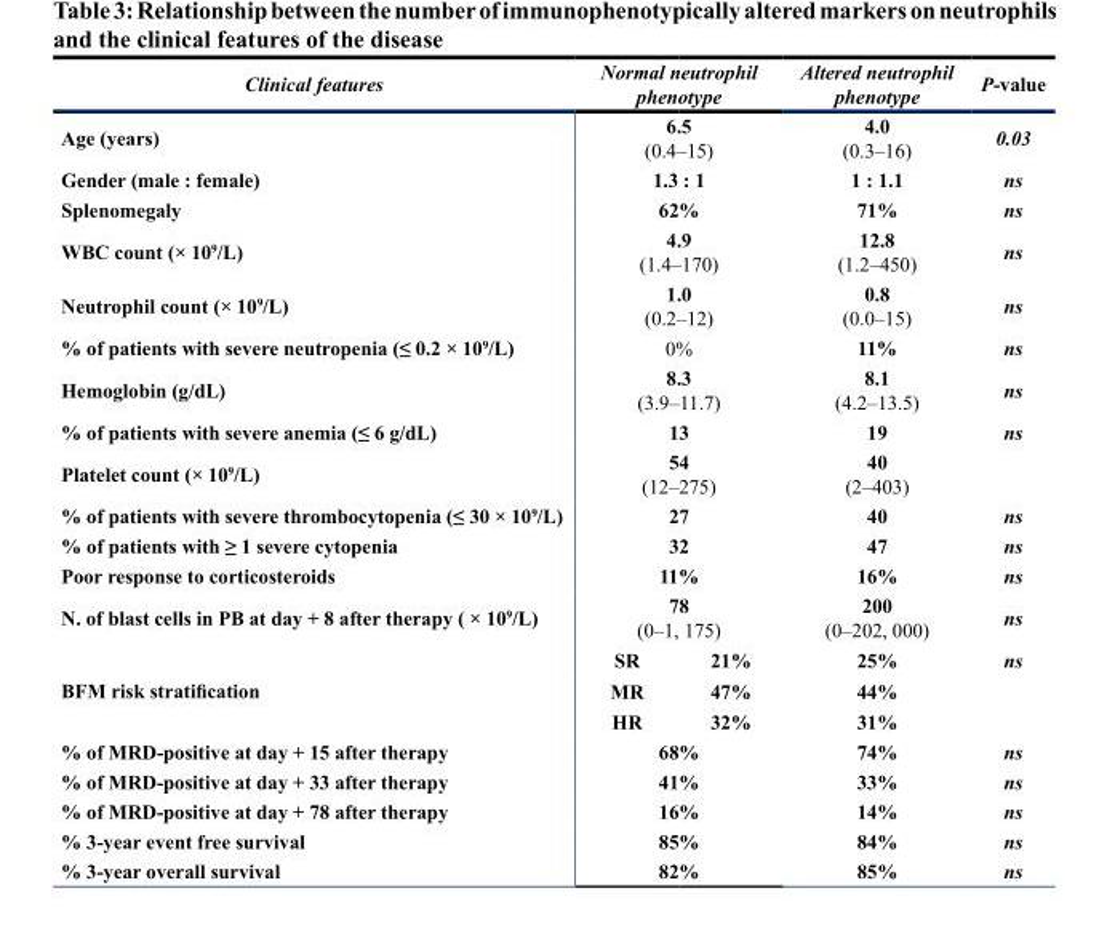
<table><thead><tr><td>Clinical features</td><td colspan="2">Normal neutrophil phenotype</td><td>Altered neutrophil phenotype</td><td>P‑value</td></tr></thead><tbody><tr><td>Age (years)</td><td colspan="2">6.5 (0.4–15)</td><td>4.0 (0.3–16)</td><td>0.03</td></tr><tr><td>Gender (male : female)</td><td colspan="2">1.3 : 1</td><td>1 : 1.1</td><td>ns</td></tr><tr><td>Splenomegaly</td><td colspan="2">62%</td><td>71%</td><td>ns</td></tr><tr><td>WBC count (× 10<sup>9</sup>/L)</td><td colspan="2">4.9 (1.4–170)</td><td>12.8 (1.2–450)</td><td>ns</td></tr><tr><td>Neutrophil count (× 10<sup>9</sup>/L)</td><td colspan="2">1.0 (0.2–12)</td><td>0.8 (0.0–15)</td><td>ns</td></tr><tr><td>% of patients with severe neutropenia (≤ 0.2 × 10<sup>9</sup>/L)</td><td colspan="2">0%</td><td>11%</td><td>ns</td></tr><tr><td>Hemoglobin (g/dL)</td><td colspan="2">8.3 (3.9–11.7)</td><td>8.1 (4.2–13.5)</td><td>ns</td></tr><tr><td>% of patients with severe anemia (≤ 6 g/dL)</td><td colspan="2">13</td><td>19</td><td>ns</td></tr><tr><td>Platelet count (× 10<sup>9</sup>/L)</td><td colspan="2">54 (12–275)</td><td>40 (2–403)</td><td></td></tr><tr><td>% of patients with severe thrombocytopenia (≤ 30 × 10<sup>9</sup>/L)</td><td colspan="2">27</td><td>40</td><td>ns</td></tr><tr><td>% of patients with ≥ 1 severe cytopenia</td><td colspan="2">32</td><td>47</td><td>ns</td></tr><tr><td>Poor response to corticosteroids</td><td colspan="2">11%</td><td>16%</td><td>ns</td></tr><tr><td>N. of blast cells in PB at day + 8 after therapy ( × 10<sup>9</sup>/L)</td><td colspan="2">78 (0–1, 175)</td><td>200 (0–202, 000)</td><td>ns</td></tr><tr><td rowspan="3">BFM risk stratification</td><td>SR</td><td>21%</td><td>25%</td><td>ns</td></tr><tr><td>MR</td><td>47%</td><td>44%</td><td></td></tr><tr><td>HR</td><td>32%</td><td>31%</td><td></td></tr><tr><td>% of MRD‑positive at day + 15 after therapy</td><td colspan="2">68%</td><td>74%</td><td>ns</td></tr><tr><td>% of MRD‑positive at day + 33 after therapy</td><td colspan="2">41%</td><td>33%</td><td>ns</td></tr><tr><td>% of MRD‑positive at day + 78 after therapy</td><td colspan="2">16%</td><td>14%</td><td>ns</td></tr><tr><td>% 3‑year event free survival</td><td colspan="2">85%</td><td>84%</td><td>ns</td></tr><tr><td>% 3‑year overall survival</td><td colspan="2">82%</td><td>85%</td><td>ns</td></tr></tbody></table>